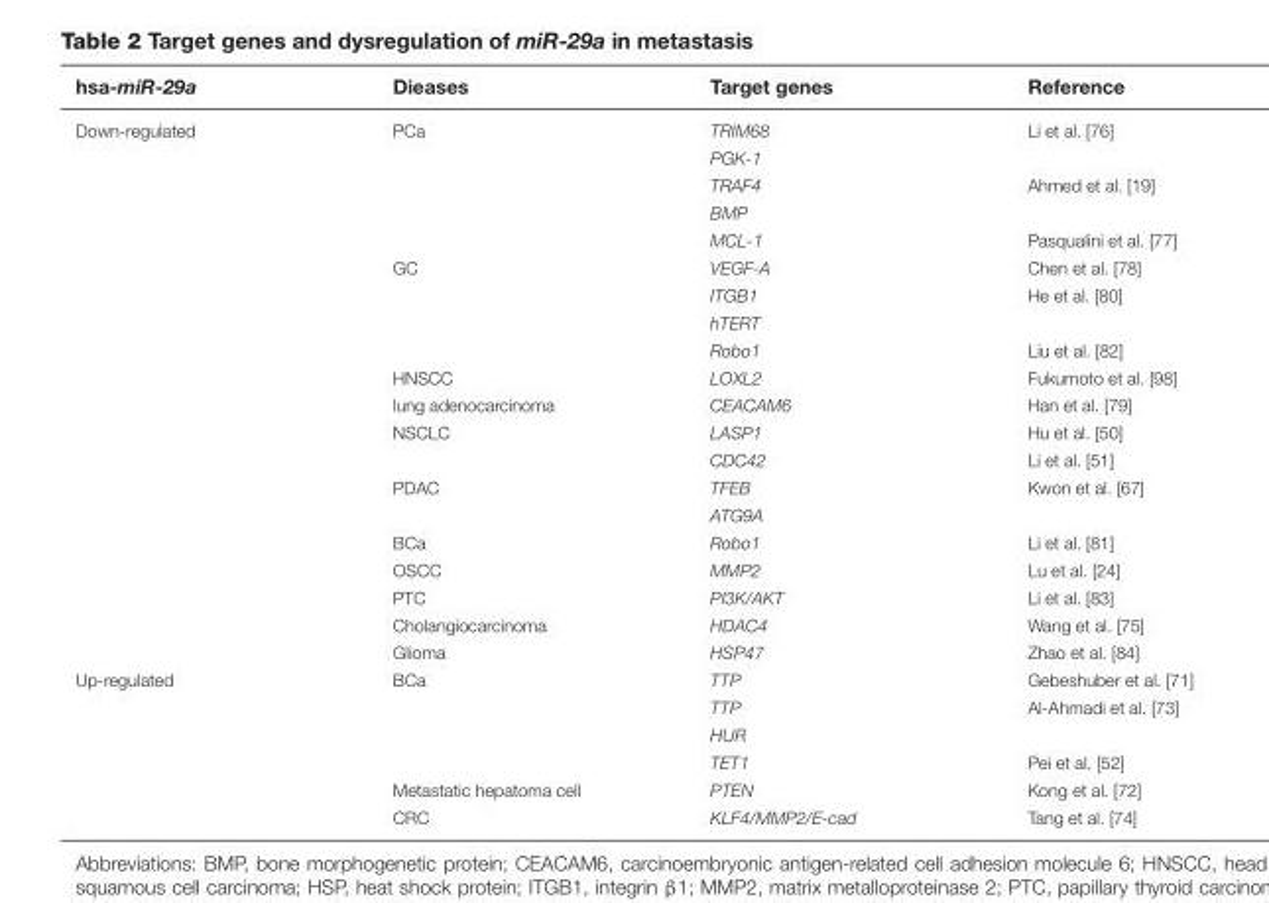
<table><thead><tr><td>hsa-miR-29a</td><td>Dieases</td><td>Target genes</td><td>Reference</td></tr></thead><tbody><tr><td rowspan="20">Down-regulated</td><td>PCa</td><td>TRIM68</td><td>Li et al. [76]</td></tr><tr><td></td><td>PGK-1</td><td></td></tr><tr><td></td><td>TRAF4</td><td>Ahmed et al. [19]</td></tr><tr><td></td><td>BMP</td><td></td></tr><tr><td></td><td>MCL-1</td><td>Pasqualini et al. [77]</td></tr><tr><td>GC</td><td>VEGF-A</td><td>Chen et al. [78]</td></tr><tr><td></td><td>ITGB1</td><td>He et al. [80]</td></tr><tr><td></td><td>hTERT</td><td></td></tr><tr><td></td><td>Robo1</td><td>Liu et al. [82]</td></tr><tr><td>HNSCC</td><td>LOXL2</td><td>Fukumoto et al. [98]</td></tr><tr><td>lung adenocarcinoma</td><td>CEACAM6</td><td>Han et al. [79]</td></tr><tr><td>NSCLC</td><td>LASP1</td><td>Hu et al. [50]</td></tr><tr><td></td><td>CDC42</td><td>Li et al. [51]</td></tr><tr><td>PDAC</td><td>TFEB</td><td>Kwon et al. [67]</td></tr><tr><td></td><td>ATG9A</td><td></td></tr><tr><td>BCa</td><td>Robo1</td><td>Li et al. [81]</td></tr><tr><td>OSCC</td><td>MMP2</td><td>Lu et al. [24]</td></tr><tr><td>PTC</td><td>PI3K/AKT</td><td>Li et al. [83]</td></tr><tr><td>Cholangiocarcinoma</td><td>HDAC4</td><td>Wang et al. [75]</td></tr><tr><td>Glioma</td><td>HSP47</td><td>Zhao et al. [84]</td></tr><tr><td rowspan="6">Up-regulated</td><td>BCa</td><td>TTP</td><td>Gebeshuber et al. [71]</td></tr><tr><td></td><td>TTP</td><td>Al-Ahmadi et al. [73]</td></tr><tr><td></td><td>HUR</td><td></td></tr><tr><td></td><td>TET1</td><td>Pei et al. [52]</td></tr><tr><td>Metastatic hepatoma cell</td><td>PTEN</td><td>Kong et al. [72]</td></tr><tr><td>CRC</td><td>KLF4/MMP2/E-cad</td><td>Tang et al. [74]</td></tr></tbody></table>